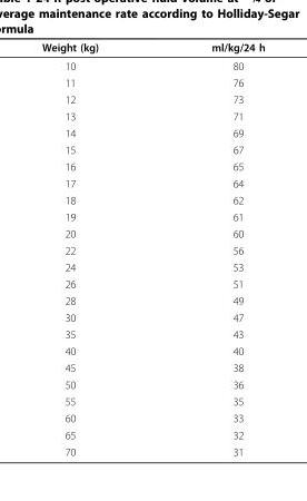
<table><thead><tr><td>Weight (kg)</td><td>ml/kg/24 h</td></tr></thead><tbody><tr><td>10</td><td>80</td></tr><tr><td>11</td><td>76</td></tr><tr><td>12</td><td>73</td></tr><tr><td>13</td><td>71</td></tr><tr><td>14</td><td>69</td></tr><tr><td>15</td><td>67</td></tr><tr><td>16</td><td>65</td></tr><tr><td>17</td><td>64</td></tr><tr><td>18</td><td>62</td></tr><tr><td>19</td><td>61</td></tr><tr><td>20</td><td>60</td></tr><tr><td>22</td><td>56</td></tr><tr><td>24</td><td>53</td></tr><tr><td>26</td><td>51</td></tr><tr><td>28</td><td>49</td></tr><tr><td>30</td><td>47</td></tr><tr><td>35</td><td>43</td></tr><tr><td>40</td><td>40</td></tr><tr><td>45</td><td>38</td></tr><tr><td>50</td><td>36</td></tr><tr><td>55</td><td>35</td></tr><tr><td>60</td><td>33</td></tr><tr><td>65</td><td>32</td></tr><tr><td>70</td><td>31</td></tr></tbody></table>